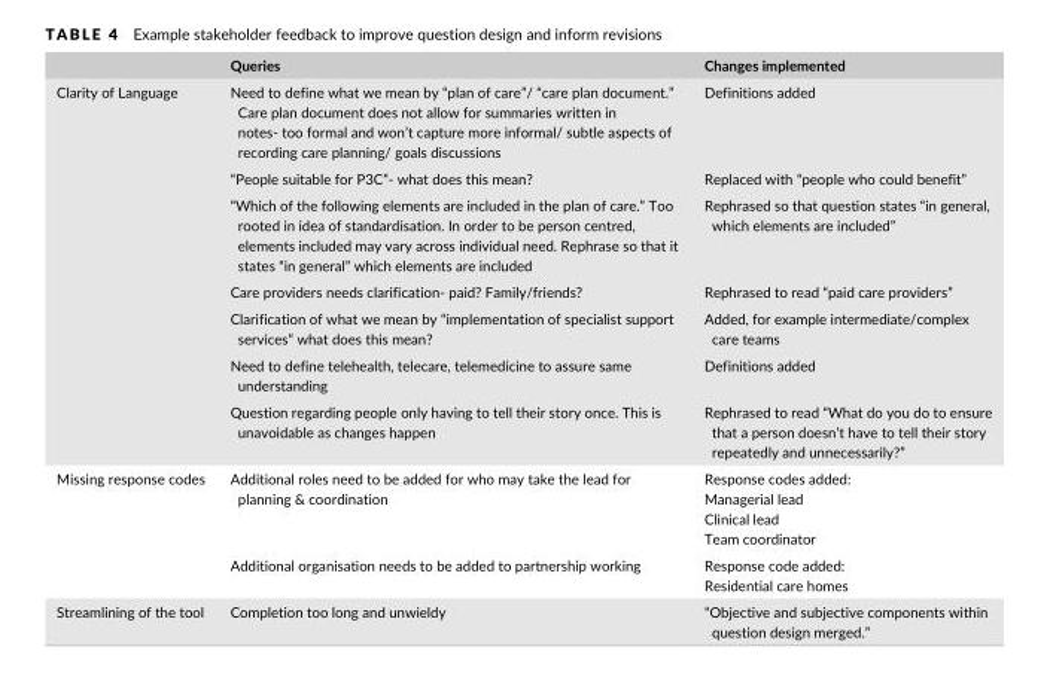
<table><thead><tr><td></td><td>Queries</td><td>Changes implemented</td></tr></thead><tbody><tr><td rowspan="7">Clarity of Language</td><td>Need to define what we mean by “plan of care”/ “care plan document.” Care plan document does not allow for summaries written in notes- too formal and won’t capture more informal/ subtle aspects of recording care planning/ goals discussions</td><td>Definitions added</td></tr><tr><td>“People suitable for P3C”- what does this mean?</td><td>Replaced with “people who could benefit”</td></tr><tr><td>“Which of the following elements are included in the plan of care.” Too rooted in idea of standardisation. In order to be person centred, elements included may vary across individual need. Rephrase so that it states “in general” which elements are included</td><td>Rephrased so that question states “in general, which elements are included”</td></tr><tr><td>Care providers needs clarification- paid? Family/friends?</td><td>Rephrased to read “paid care providers”</td></tr><tr><td>Clarification of what we mean by “implementation of specialist support services” what does this mean?</td><td>Added, for example intermediate/complex care teams</td></tr><tr><td>Need to define telehealth, telecare, telemedicine to assure same understanding</td><td>Definitions added</td></tr><tr><td>Question regarding people only having to tell their story once. This is unavoidable as changes happen</td><td>Rephrased to read “What do you do to ensure that a person doesn’t have to tell their story repeatedly and unnecessarily?”</td></tr><tr><td rowspan="2">Missing response codes</td><td>Additional roles need to be added for who may take the lead for planning &amp; coordination</td><td>Response codes added: Managerial lead Clinical lead Team coordinator</td></tr><tr><td>Additional organisation needs to be added to partnership working</td><td>Response code added: Residential care homes</td></tr><tr><td>Streamlining of the tool</td><td>Completion too long and unwieldy</td><td>“Objective and subjective components within question design merged.”</td></tr></tbody></table>